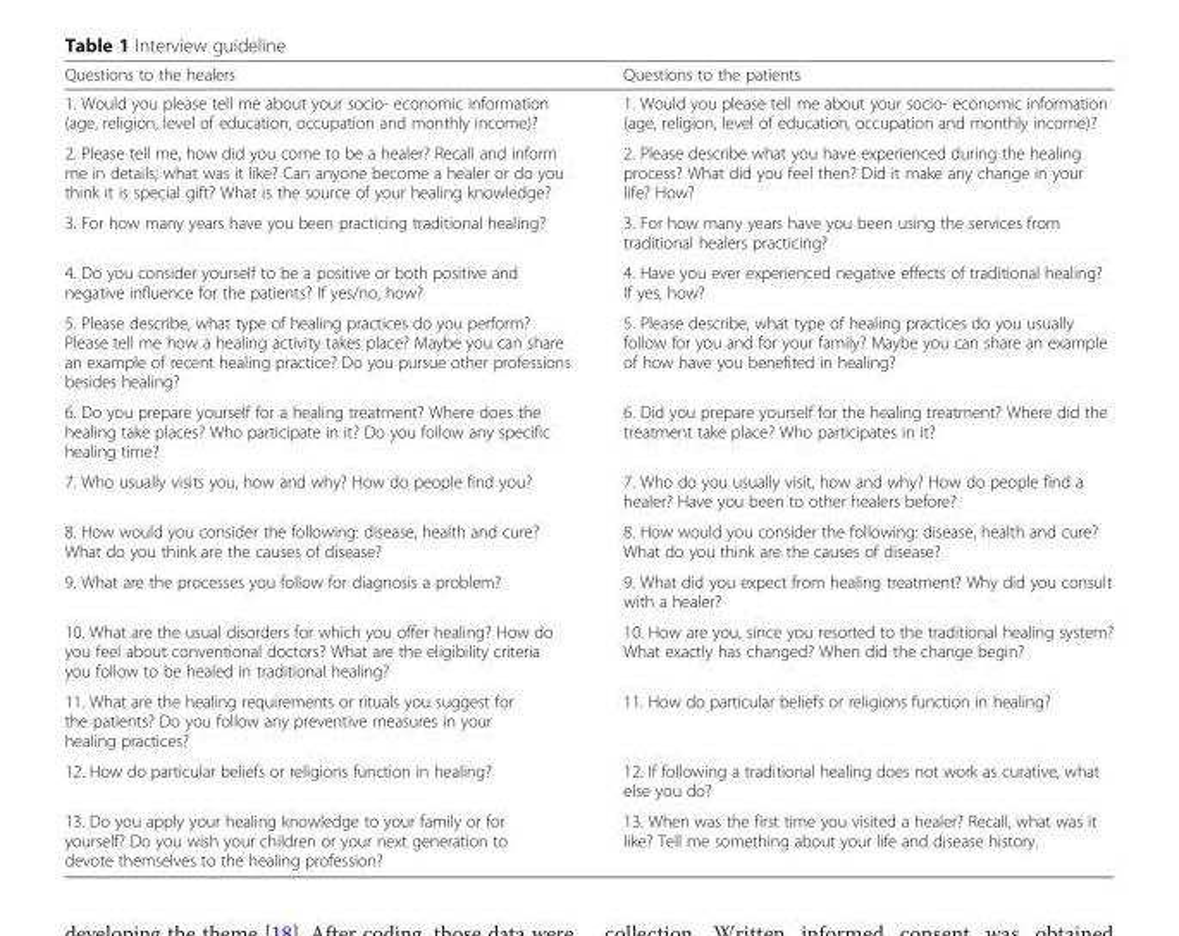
<table><thead><tr><td>Questions to the healers</td><td>Questions to the patients</td></tr></thead><tbody><tr><td>1. Would you please tell me about your socio- economic information (age, religion, level of education, occupation and monthly income)?</td><td>1. Would you please tell me about your socio- economic information (age, religion, level of education, occupation and monthly income)?</td></tr><tr><td>2. Please tell me, how did you come to be a healer? Recall and inform me in details; what was it like? Can anyone become a healer or do you think it is special gift? What is the source of your healing knowledge?</td><td>2. Please describe what you have experienced during the healing process? What did you feel then? Did it make any change in your life? How?</td></tr><tr><td>3. For how many years have you been practicing traditional healing?</td><td>3. For how many years have you been using the services from traditional healers practicing?</td></tr><tr><td>4. Do you consider yourself to be a positive or both positive and negative influence for the patients? If yes/no, how?</td><td>4. Have you ever experienced negative effects of traditional healing? If yes, how?</td></tr><tr><td>5. Please describe, what type of healing practices do you perform? Please tell me how a healing activity takes place? Maybe you can share an example of recent healing practice? Do you pursue other professions besides healing?</td><td>5. Please describe, what type of healing practices do you usually follow for you and for your family? Maybe you can share an example of how have you benefited in healing?</td></tr><tr><td>6. Do you prepare yourself for a healing treatment? Where does the healing take places? Who participate in it? Do you follow any specific healing time?</td><td>6. Did you prepare yourself for the healing treatment? Where did the treatment take place? Who participates in it?</td></tr><tr><td>7. Who usually visits you, how and why? How do people find you?</td><td>7. Who do you usually visit, how and why? How do people find a healer? Have you been to other healers before?</td></tr><tr><td>8. How would you consider the following: disease, health and cure? What do you think are the causes of disease?</td><td>8. How would you consider the following: disease, health and cure? What do you think are the causes of disease?</td></tr><tr><td>9. What are the processes you follow for diagnosis a problem?</td><td>9. What did you expect from healing treatment? Why did you consult with a healer?</td></tr><tr><td>10. What are the usual disorders for which you offer healing? How do you feel about conventional doctors? What are the eligibility criteria you follow to be healed in traditional healing?</td><td>10. How are you, since you resorted to the traditional healing system? What exactly has changed? When did the change begin?</td></tr><tr><td>11. What are the healing requirements or rituals you suggest for the patients? Do you follow any preventive measures in your healing practices?</td><td>11. How do particular beliefs or religions function in healing?</td></tr><tr><td>12. How do particular beliefs or religions function in healing?</td><td>12. If following a traditional healing does not work as curative, what else you do?</td></tr><tr><td>13. Do you apply your healing knowledge to your family or for yourself? Do you wish your children or your next generation to devote themselves to the healing profession?</td><td>13. When was the first time you visited a healer? Recall, what was it like? Tell me something about your life and disease history.</td></tr></tbody></table>